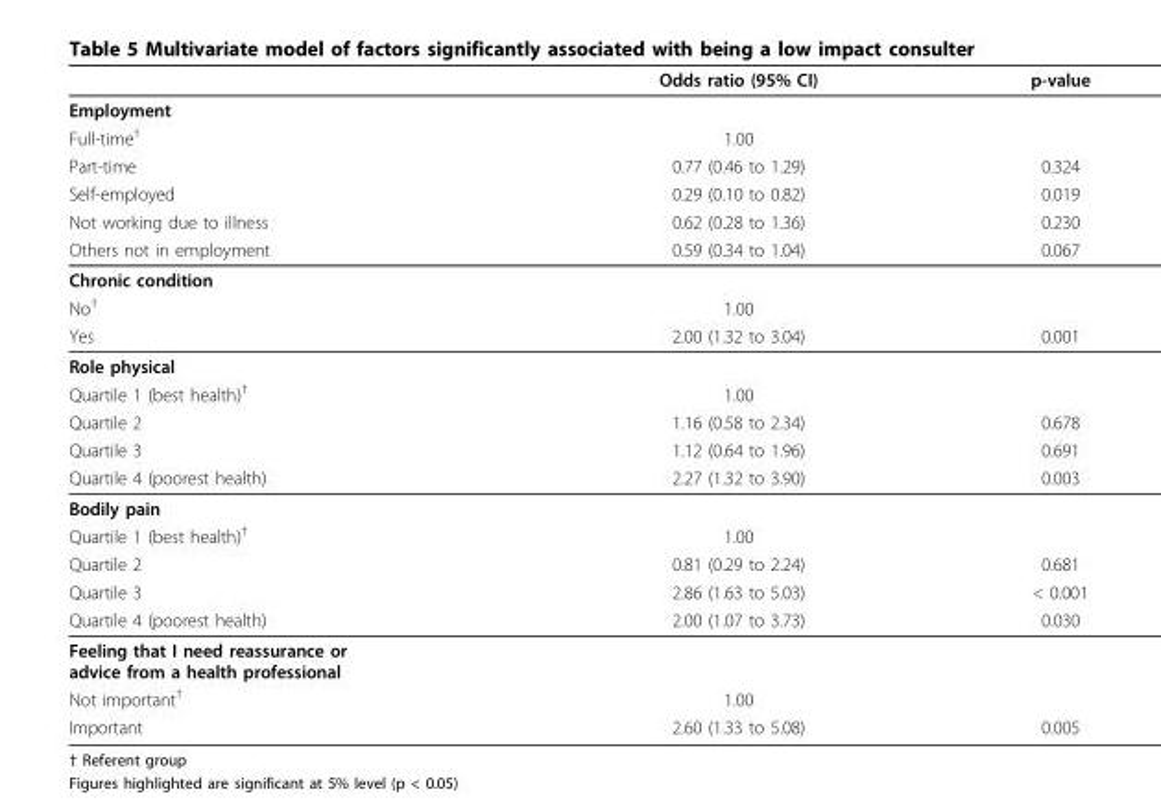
<table><thead><tr><td></td><td>Odds ratio (95% CI)</td><td>p-value</td></tr></thead><tbody><tr><td colspan="3">Employment</td></tr><tr><td>Full-time<sup>†</sup></td><td>1.00</td><td></td></tr><tr><td>Part-time</td><td>0.77 (0.46 to 1.29)</td><td>0.324</td></tr><tr><td>Self-employed</td><td>0.29 (0.10 to 0.82)</td><td>0.019</td></tr><tr><td>Not working due to illness</td><td>0.62 (0.28 to 1.36)</td><td>0.230</td></tr><tr><td>Others not in employment</td><td>0.59 (0.34 to 1.04)</td><td>0.067</td></tr><tr><td colspan="3">Chronic condition</td></tr><tr><td>No<sup>†</sup></td><td>1.00</td><td></td></tr><tr><td>Yes</td><td>2.00 (1.32 to 3.04)</td><td>0.001</td></tr><tr><td colspan="3">Role physical</td></tr><tr><td>Quartile 1 (best health)<sup>†</sup></td><td>1.00</td><td></td></tr><tr><td>Quartile 2</td><td>1.16 (0.58 to 2.34)</td><td>0.678</td></tr><tr><td>Quartile 3</td><td>1.12 (0.64 to 1.96)</td><td>0.691</td></tr><tr><td>Quartile 4 (poorest health)</td><td>2.27 (1.32 to 3.90)</td><td>0.003</td></tr><tr><td colspan="3">Bodily pain</td></tr><tr><td>Quartile 1 (best health)<sup>†</sup></td><td>1.00</td><td></td></tr><tr><td>Quartile 2</td><td>0.81 (0.29 to 2.24)</td><td>0.681</td></tr><tr><td>Quartile 3</td><td>2.86 (1.63 to 5.03)</td><td>&lt; 0.001</td></tr><tr><td>Quartile 4 (poorest health)</td><td>2.00 (1.07 to 3.73)</td><td>0.030</td></tr><tr><td colspan="3">Feeling that I need reassurance or advice from a health professional</td></tr><tr><td>Not important<sup>†</sup></td><td>1.00</td><td></td></tr><tr><td>Important</td><td>2.60 (1.33 to 5.08)</td><td>0.005</td></tr></tbody></table>